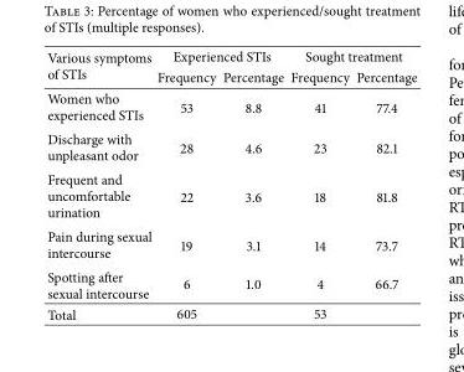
<table><thead><tr><td rowspan="2">Various symptoms of STIs</td><td colspan="2">Experienced STIs</td><td colspan="2">Sought treatment</td></tr><tr><td>Frequency</td><td>Percentage</td><td>Frequency</td><td>Percentage</td></tr></thead><tbody><tr><td>Women who experienced STIs</td><td>53</td><td>8.8</td><td>41</td><td>77.4</td></tr><tr><td>Discharge with unpleasant odor</td><td>28</td><td>4.6</td><td>23</td><td>82.1</td></tr><tr><td>Frequent and uncomfortable urination</td><td>22</td><td>3.6</td><td>18</td><td>81.8</td></tr><tr><td>Pain during sexual intercourse</td><td>19</td><td>3.1</td><td>14</td><td>73.7</td></tr><tr><td>Spotting after sexual intercourse</td><td>6</td><td>1.0</td><td>4</td><td>66.7</td></tr><tr><td>Total</td><td>605</td><td></td><td>53</td><td></td></tr></tbody></table>